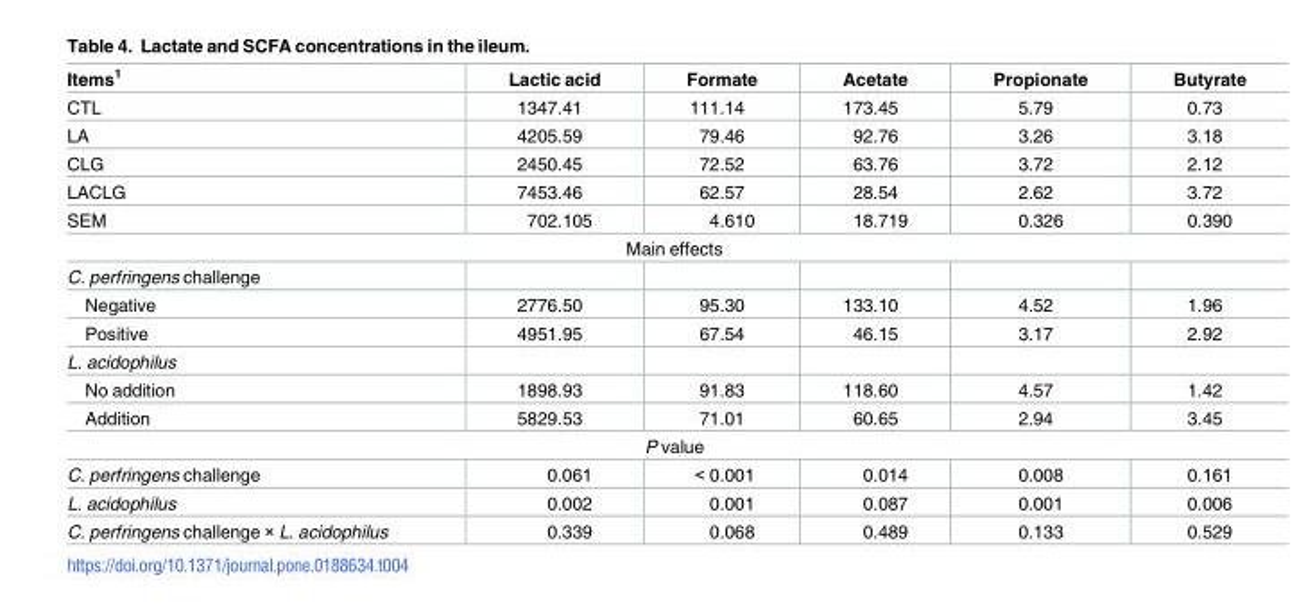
<table><thead><tr><td>Items<sup>1</sup></td><td>Lactic acid</td><td>Formate</td><td>Acetate</td><td>Propionate</td><td>Butyrate</td></tr></thead><tbody><tr><td>CTL</td><td>1347.41</td><td>111.14</td><td>173.45</td><td>5.79</td><td>0.73</td></tr><tr><td>LA</td><td>4205.59</td><td>79.46</td><td>92.76</td><td>3.26</td><td>3.18</td></tr><tr><td>CLG</td><td>2450.45</td><td>72.52</td><td>63.76</td><td>3.72</td><td>2.12</td></tr><tr><td>LACLG</td><td>7453.46</td><td>62.57</td><td>28.54</td><td>2.62</td><td>3.72</td></tr><tr><td>SEM</td><td>702.105</td><td>4.610</td><td>18.719</td><td>0.326</td><td>0.390</td></tr><tr><td colspan="6">Main effects</td></tr><tr><td colspan="6">C. perfringens challenge</td></tr><tr><td>Negative</td><td>2776.50</td><td>95.30</td><td>133.10</td><td>4.52</td><td>1.96</td></tr><tr><td>Positive</td><td>4951.95</td><td>67.54</td><td>46.15</td><td>3.17</td><td>2.92</td></tr><tr><td colspan="6">L. acidophilus</td></tr><tr><td>No addition</td><td>1898.93</td><td>91.83</td><td>118.60</td><td>4.57</td><td>1.42</td></tr><tr><td>Addition</td><td>5829.53</td><td>71.01</td><td>60.65</td><td>2.94</td><td>3.45</td></tr><tr><td colspan="6">P value</td></tr><tr><td>C. perfringens challenge</td><td>0.061</td><td>&lt; 0.001</td><td>0.014</td><td>0.008</td><td>0.161</td></tr><tr><td>L. acidophilus</td><td>0.002</td><td>0.001</td><td>0.087</td><td>0.001</td><td>0.006</td></tr><tr><td>C. perfringens challenge × L. acidophilus</td><td>0.339</td><td>0.068</td><td>0.489</td><td>0.133</td><td>0.529</td></tr></tbody></table>